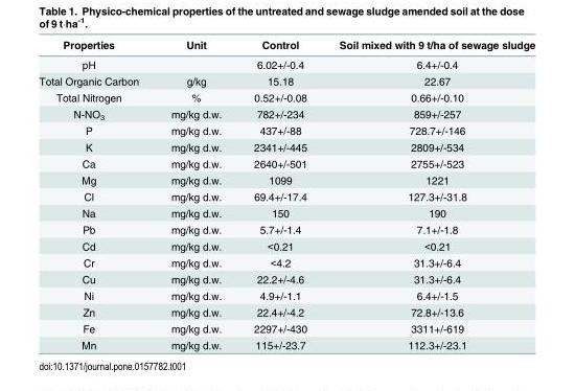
<table><thead><tr><td>Properties</td><td>Unit</td><td>Control</td><td>Soil mixed with 9 t/ha of sewage sludge</td></tr></thead><tbody><tr><td>pH</td><td></td><td>6.02+/-0.4</td><td>6.4+/-0.4</td></tr><tr><td>Total Organic Carbon</td><td>g/kg</td><td>15.18</td><td>22.67</td></tr><tr><td>Total Nitrogen</td><td>%</td><td>0.52+/-0.08</td><td>0.66+/-0.10</td></tr><tr><td>N-NO<sub>3</sub></td><td>mg/kg d.w.</td><td>782+/-234</td><td>859+/-257</td></tr><tr><td>P</td><td>mg/kg d.w.</td><td>437+/-88</td><td>728.7+/-146</td></tr><tr><td>K</td><td>mg/kg d.w.</td><td>2341+/-445</td><td>2809+/-534</td></tr><tr><td>Ca</td><td>mg/kg d.w.</td><td>2640+/-501</td><td>2755+/-523</td></tr><tr><td>Mg</td><td>mg/kg d.w.</td><td>1099</td><td>1221</td></tr><tr><td>Cl</td><td>mg/kg d.w.</td><td>69.4+/-17.4</td><td>127.3+/-31.8</td></tr><tr><td>Na</td><td>mg/kg d.w.</td><td>150</td><td>190</td></tr><tr><td>Pb</td><td>mg/kg d.w.</td><td>5.7+/-1.4</td><td>7.1+/-1.8</td></tr><tr><td>Cd</td><td>mg/kg d.w.</td><td>&lt;0.21</td><td>&lt;0.21</td></tr><tr><td>Cr</td><td>mg/kg d.w.</td><td>&lt;4.2</td><td>31.3+/-6.4</td></tr><tr><td>Cu</td><td>mg/kg d.w.</td><td>22.2+/-4.6</td><td>31.3+/-6.4</td></tr><tr><td>Ni</td><td>mg/kg d.w.</td><td>4.9+/-1.1</td><td>6.4+/-1.5</td></tr><tr><td>Zn</td><td>mg/kg d.w.</td><td>22.4+/-4.2</td><td>72.8+/-13.6</td></tr><tr><td>Fe</td><td>mg/kg d.w.</td><td>2297+/-430</td><td>3311+/-619</td></tr><tr><td>Mn</td><td>mg/kg d.w.</td><td>115+/-23.7</td><td>112.3+/-23.1</td></tr></tbody></table>